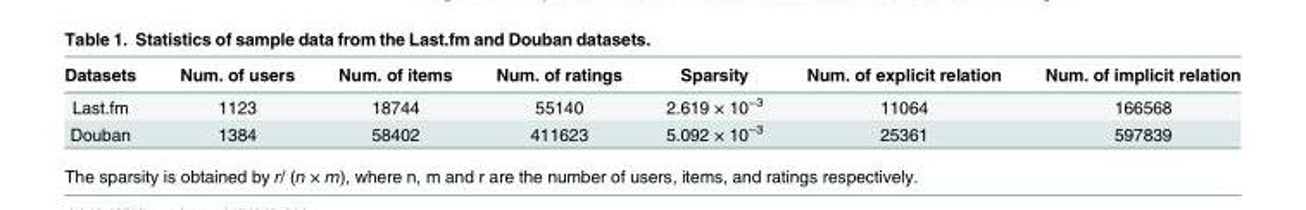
<table><thead><tr><td>Datasets</td><td>Num. of users</td><td>Num. of items</td><td>Num. of ratings</td><td>Sparsity</td><td>Num. of explicit relation</td><td>Num. of implicit relation</td></tr></thead><tbody><tr><td>Last.fm</td><td>1123</td><td>18744</td><td>55140</td><td>2.619 × 10<sup>−3</sup></td><td>11064</td><td>166568</td></tr><tr><td>Douban</td><td>1384</td><td>58402</td><td>411623</td><td>5.092 × 10<sup>−3</sup></td><td>25361</td><td>597839</td></tr></tbody></table>